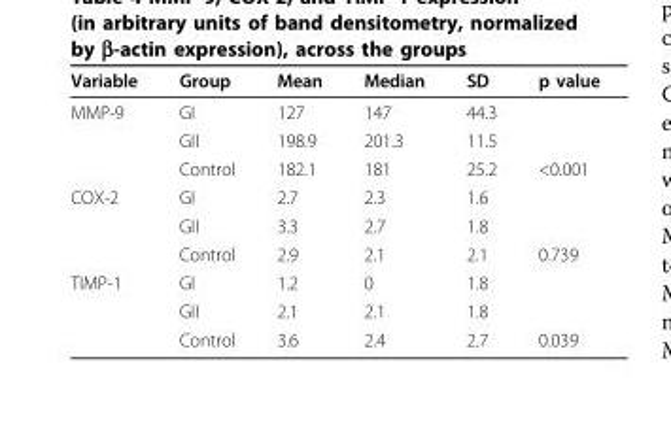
<table><thead><tr><td>Variable</td><td>Group</td><td>Mean</td><td>Median</td><td>SD</td><td>p value</td></tr></thead><tbody><tr><td rowspan="3">MMP-9</td><td>GI</td><td>127</td><td>147</td><td>44.3</td><td></td></tr><tr><td>GII</td><td>198.9</td><td>201.3</td><td>11.5</td><td></td></tr><tr><td>Control</td><td>182.1</td><td>181</td><td>25.2</td><td>&lt;0.001</td></tr><tr><td rowspan="3">COX-2</td><td>GI</td><td>2.7</td><td>2.3</td><td>1.6</td><td></td></tr><tr><td>GII</td><td>3.3</td><td>2.7</td><td>1.8</td><td></td></tr><tr><td>Control</td><td>2.9</td><td>2.1</td><td>2.1</td><td>0.739</td></tr><tr><td rowspan="3">TIMP-1</td><td>GI</td><td>1.2</td><td>0</td><td>1.8</td><td></td></tr><tr><td>GII</td><td>2.1</td><td>2.1</td><td>1.8</td><td></td></tr><tr><td>Control</td><td>3.6</td><td>2.4</td><td>2.7</td><td>0.039</td></tr></tbody></table>